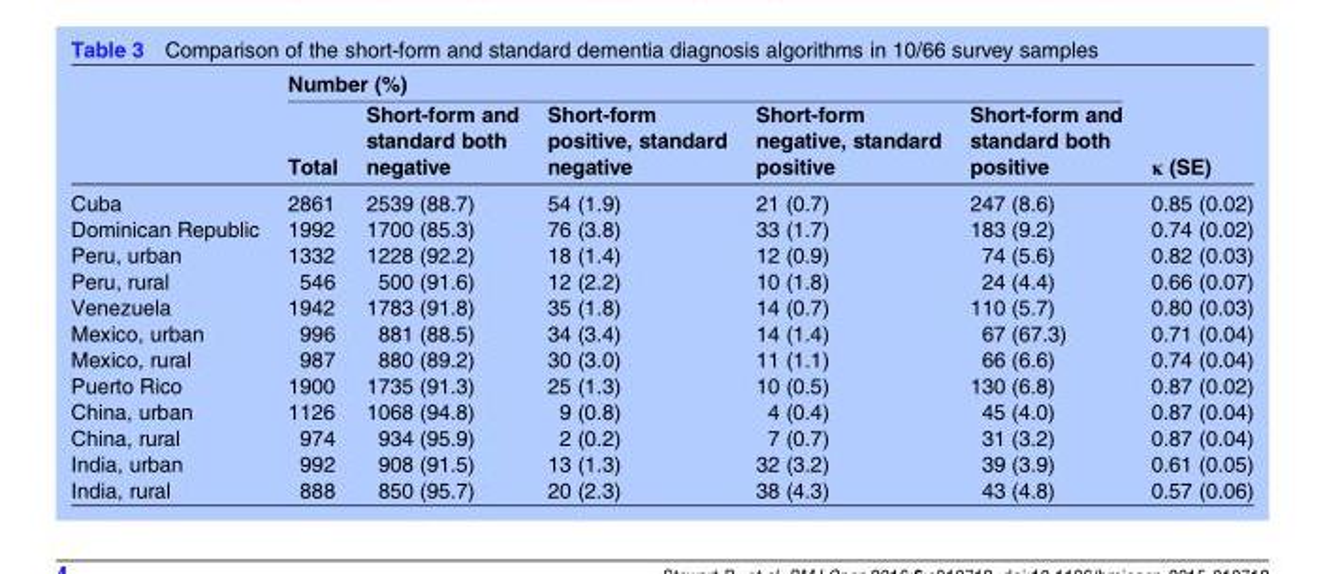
<table><thead><tr><td rowspan="2"></td><td colspan="5">Number (%)</td><td rowspan="2">κ (SE)</td></tr><tr><td>Total</td><td>Short-form and standard both negative</td><td>Short-form positive, standard negative</td><td>Short-form negative, standard positive</td><td>Short-form and standard both positive</td></tr></thead><tbody><tr><td>Cuba</td><td>2861</td><td>2539 (88.7)</td><td>54 (1.9)</td><td>21 (0.7)</td><td>247 (8.6)</td><td>0.85 (0.02)</td></tr><tr><td>Dominican Republic</td><td>1992</td><td>1700 (85.3)</td><td>76 (3.8)</td><td>33 (1.7)</td><td>183 (9.2)</td><td>0.74 (0.02)</td></tr><tr><td>Peru, urban</td><td>1332</td><td>1228 (92.2)</td><td>18 (1.4)</td><td>12 (0.9)</td><td>74 (5.6)</td><td>0.82 (0.03)</td></tr><tr><td>Peru, rural</td><td>546</td><td>500 (91.6)</td><td>12 (2.2)</td><td>10 (1.8)</td><td>24 (4.4)</td><td>0.66 (0.07)</td></tr><tr><td>Venezuela</td><td>1942</td><td>1783 (91.8)</td><td>35 (1.8)</td><td>14 (0.7)</td><td>110 (5.7)</td><td>0.80 (0.03)</td></tr><tr><td>Mexico, urban</td><td>996</td><td>881 (88.5)</td><td>34 (3.4)</td><td>14 (1.4)</td><td>67 (67.3)</td><td>0.71 (0.04)</td></tr><tr><td>Mexico, rural</td><td>987</td><td>880 (89.2)</td><td>30 (3.0)</td><td>11 (1.1)</td><td>66 (6.6)</td><td>0.74 (0.04)</td></tr><tr><td>Puerto Rico</td><td>1900</td><td>1735 (91.3)</td><td>25 (1.3)</td><td>10 (0.5)</td><td>130 (6.8)</td><td>0.87 (0.02)</td></tr><tr><td>China, urban</td><td>1126</td><td>1068 (94.8)</td><td>9 (0.8)</td><td>4 (0.4)</td><td>45 (4.0)</td><td>0.87 (0.04)</td></tr><tr><td>China, rural</td><td>974</td><td>934 (95.9)</td><td>2 (0.2)</td><td>7 (0.7)</td><td>31 (3.2)</td><td>0.87 (0.04)</td></tr><tr><td>India, urban</td><td>992</td><td>908 (91.5)</td><td>13 (1.3)</td><td>32 (3.2)</td><td>39 (3.9)</td><td>0.61 (0.05)</td></tr><tr><td>India, rural</td><td>888</td><td>850 (95.7)</td><td>20 (2.3)</td><td>38 (4.3)</td><td>43 (4.8)</td><td>0.57 (0.06)</td></tr></tbody></table>